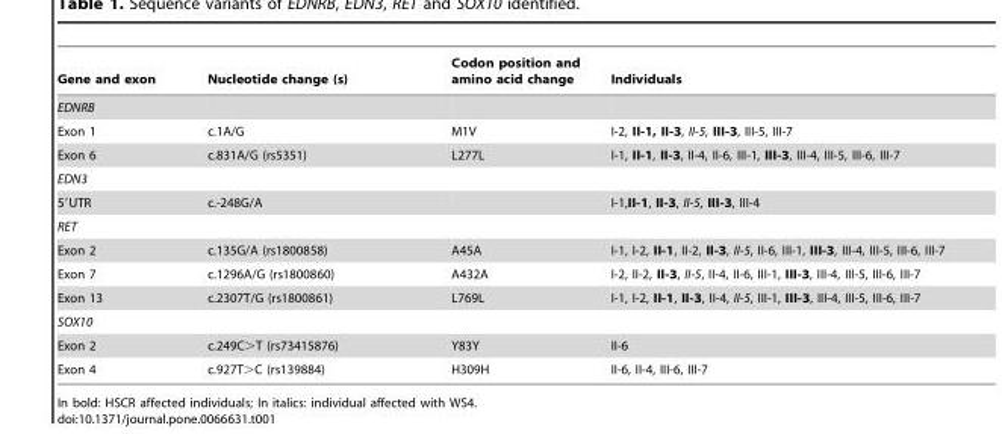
<table><thead><tr><td>Gene and exon</td><td>Nucleotide change (s)</td><td>Codon position and amino acid change</td><td>Individuals</td></tr></thead><tbody><tr><td colspan="4">EDNRB</td></tr><tr><td>Exon 1</td><td>c.1A/G</td><td>M1V</td><td>I-2, II-1, II-3, II-5, III-3, III-5, III-7</td></tr><tr><td>Exon 6</td><td>c.831A/G (rs5351)</td><td>L277L</td><td>I-1, II-1, II-3, II-4, II-6, III-1, III-3, III-4, III-5, III-6, III-7</td></tr><tr><td colspan="4">EDN3</td></tr><tr><td>5′UTR</td><td>c.-248G/A</td><td></td><td>I-1,II-1, II-3, II-5, III-3, III-4</td></tr><tr><td colspan="4">RET</td></tr><tr><td>Exon 2</td><td>c.135G/A (rs1800858)</td><td>A45A</td><td>I-1, I-2, II-1, II-2, II-3, II-5, II-6, III-1, III-3, III-4, III-5, III-6, III-7</td></tr><tr><td>Exon 7</td><td>c.1296A/G (rs1800860)</td><td>A432A</td><td>I-2, II-2, II-3, II-5, II-4, II-6, III-1, III-3, III-4, III-5, III-6, III-7</td></tr><tr><td>Exon 13</td><td>c.2307T/G (rs1800861)</td><td>L769L</td><td>I-1, I-2, II-1, II-3, II-4, II-5, III-1, III-3, III-4, III-5, III-6, III-7</td></tr><tr><td colspan="4">SOX10</td></tr><tr><td>Exon 2</td><td>c.249C&gt;T (rs73415876)</td><td>Y83Y</td><td>II-6</td></tr><tr><td>Exon 4</td><td>c.927T&gt;C (rs139884)</td><td>H309H</td><td>II-6, II-4, III-6, III-7</td></tr></tbody></table>